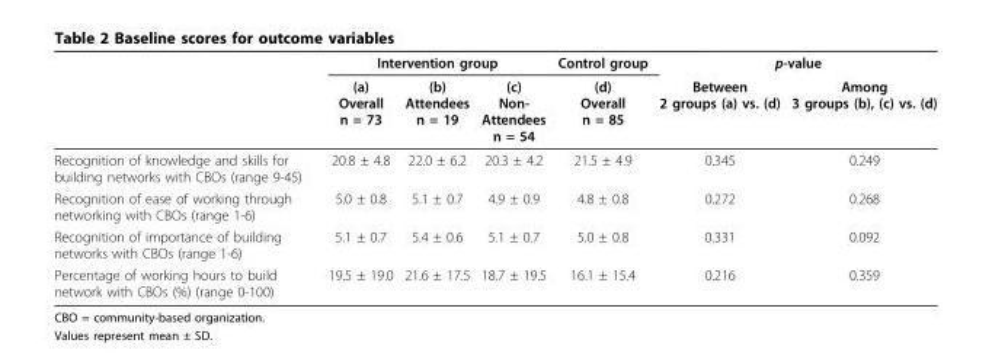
<table><thead><tr><td rowspan="2"></td><td colspan="3">Intervention group</td><td rowspan="2">Control group (d) Overall n = 85</td><td colspan="2">p-value</td></tr><tr><td>(a) Overall n = 73</td><td>(b) Attendees n = 19</td><td>(c) Non- Attendees n = 54</td><td>Between 2 groups (a) vs. (d)</td><td>Among 3 groups (b), (c) vs. (d)</td></tr></thead><tbody><tr><td>Recognition of knowledge and skills for building networks with CBOs (range 9-45)</td><td>20.8 ± 4.8</td><td>22.0 ± 6.2</td><td>20.3 ± 4.2</td><td>21.5 ± 4.9</td><td>0.345</td><td>0.249</td></tr><tr><td>Recognition of ease of working through networking with CBOs (range 1-6)</td><td>5.0 ± 0.8</td><td>5.1 ± 0.7</td><td>4.9 ± 0.9</td><td>4.8 ± 0.8</td><td>0.272</td><td>0.268</td></tr><tr><td>Recognition of importance of building networks with CBOs (range 1-6)</td><td>5.1 ± 0.7</td><td>5.4 ± 0.6</td><td>5.1 ± 0.7</td><td>5.0 ± 0.8</td><td>0.331</td><td>0.092</td></tr><tr><td>Percentage of working hours to build network with CBOs (%) (range 0-100)</td><td>19.5 ± 19.0</td><td>21.6 ± 17.5</td><td>18.7 ± 19.5</td><td>16.1 ± 15.4</td><td>0.216</td><td>0.359</td></tr></tbody></table>